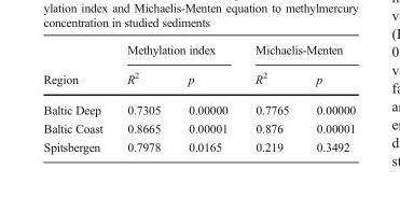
<table><thead><tr><td rowspan="2">Region</td><td colspan="2">Methylation index</td><td colspan="2">Michaelis-Menten</td></tr><tr><td>R<sup>2</sup></td><td>p</td><td>R<sup>2</sup></td><td>p</td></tr></thead><tbody><tr><td>Baltic Deep</td><td>0.7305</td><td>0.00000</td><td>0.7765</td><td>0.00000</td></tr><tr><td>Baltic Coast</td><td>0.8665</td><td>0.00001</td><td>0.876</td><td>0.00001</td></tr><tr><td>Spitsbergen</td><td>0.7978</td><td>0.0165</td><td>0.219</td><td>0.3492</td></tr></tbody></table>